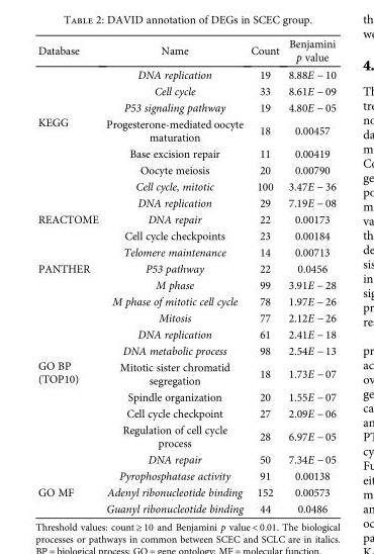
<table><thead><tr><td>Database</td><td>Name</td><td>Count</td><td>Benjamini p value</td></tr></thead><tbody><tr><td rowspan="6">KEGG</td><td>DNA replication</td><td>19</td><td>8.88E − 10</td></tr><tr><td>Cell cycle</td><td>33</td><td>8.61E − 09</td></tr><tr><td>P53 signaling pathway</td><td>19</td><td>4.80E − 05</td></tr><tr><td>Progesterone-mediated oocyte maturation</td><td>18</td><td>0.00457</td></tr><tr><td>Base excision repair</td><td>11</td><td>0.00419</td></tr><tr><td>Oocyte meiosis</td><td>20</td><td>0.00790</td></tr><tr><td rowspan="5">REACTOME</td><td>Cell cycle, mitotic</td><td>100</td><td>3.47E − 36</td></tr><tr><td>DNA replication</td><td>29</td><td>7.19E − 08</td></tr><tr><td>DNA repair</td><td>22</td><td>0.00173</td></tr><tr><td>Cell cycle checkpoints</td><td>23</td><td>0.00184</td></tr><tr><td>Telomere maintenance</td><td>14</td><td>0.00713</td></tr><tr><td>PANTHER</td><td>P53 pathway</td><td>22</td><td>0.0456</td></tr><tr><td rowspan="10">GO BP (TOP10)</td><td>M phase</td><td>99</td><td>3.91E − 28</td></tr><tr><td>M phase of mitotic cell cycle</td><td>78</td><td>1.97E − 26</td></tr><tr><td>Mitosis</td><td>77</td><td>2.12E − 26</td></tr><tr><td>DNA replication</td><td>61</td><td>2.41E − 18</td></tr><tr><td>DNA metabolic process</td><td>98</td><td>2.54E − 13</td></tr><tr><td>Mitotic sister chromatid segregation</td><td>18</td><td>1.73E − 07</td></tr><tr><td>Spindle organization</td><td>20</td><td>1.55E − 07</td></tr><tr><td>Cell cycle checkpoint</td><td>27</td><td>2.09E − 06</td></tr><tr><td>Regulation of cell cycle process</td><td>28</td><td>6.97E − 05</td></tr><tr><td>DNA repair</td><td>50</td><td>7.34E − 05</td></tr><tr><td rowspan="3">GO MF</td><td>Pyrophosphatase activity</td><td>91</td><td>0.00138</td></tr><tr><td>Adenyl ribonucleotide binding</td><td>152</td><td>0.00573</td></tr><tr><td>Guanyl ribonucleotide binding</td><td>44</td><td>0.0486</td></tr></tbody></table>